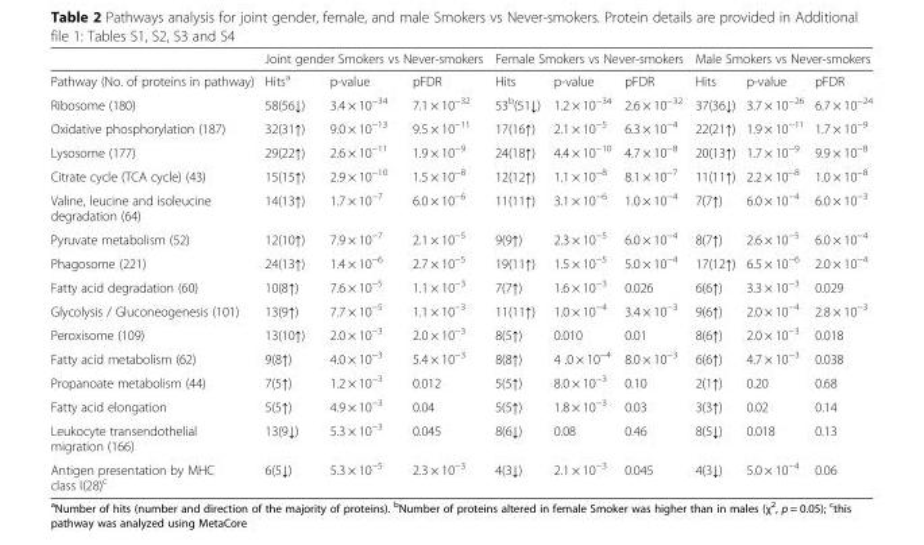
<table><thead><tr><td rowspan="2">Pathway (No. of proteins in pathway)</td><td colspan="3">Joint gender Smokers vs Never-smokers</td><td colspan="3">Female Smokers vs Never-smokers</td><td colspan="3">Male Smokers vs Never-smokers</td></tr><tr><td>Hits<sup>a</sup></td><td>p-value</td><td>pFDR</td><td>Hits</td><td>p-value</td><td>pFDR</td><td>Hits</td><td>p-value</td><td>pFDR</td></tr></thead><tbody><tr><td>Ribosome (180)</td><td>58(56↓)</td><td>3.4 × 10<sup>−34</sup></td><td>7.1 × 10<sup>−32</sup></td><td>53<sup>b</sup>(51↓)</td><td>1.2 × 10<sup>−34</sup></td><td>2.6 × 10<sup>−32</sup></td><td>37(36↓)</td><td>3.7 × 10<sup>−26</sup></td><td>6.7 × 10<sup>−24</sup></td></tr><tr><td>Oxidative phosphorylation (187)</td><td>32(31↑)</td><td>9.0 × 10<sup>−13</sup></td><td>9.5 × 10<sup>−11</sup></td><td>17(16↑)</td><td>2.1 × 10<sup>−5</sup></td><td>6.3 × 10<sup>−4</sup></td><td>22(21↑)</td><td>1.9 × 10<sup>−11</sup></td><td>1.7 × 10<sup>−9</sup></td></tr><tr><td>Lysosome (177)</td><td>29(22↑)</td><td>2.6 × 10<sup>−11</sup></td><td>1.9 × 10<sup>−9</sup></td><td>24(18↑)</td><td>4.4 × 10<sup>−10</sup></td><td>4.7 × 10<sup>−8</sup></td><td>20(13↑)</td><td>1.7 × 10<sup>−9</sup></td><td>9.9 × 10<sup>−8</sup></td></tr><tr><td>Citrate cycle (TCA cycle) (43)</td><td>15(15↑)</td><td>2.9 × 10<sup>−10</sup></td><td>1.5 × 10<sup>−8</sup></td><td>12(12↑)</td><td>1.1 × 10<sup>−8</sup></td><td>8.1 × 10<sup>−7</sup></td><td>11(11↑)</td><td>2.2 × 10<sup>−8</sup></td><td>1.0 × 10<sup>−8</sup></td></tr><tr><td>Valine, leucine and isoleucine degradation (64)</td><td>14(13↑)</td><td>1.7 × 10<sup>−7</sup></td><td>6.0 × 10<sup>−6</sup></td><td>11(11↑)</td><td>3.1 × 10<sup>−6</sup></td><td>1.0 × 10<sup>−4</sup></td><td>7(7↑)</td><td>6.0 × 10<sup>−4</sup></td><td>6.0 × 10<sup>−3</sup></td></tr><tr><td>Pyruvate metabolism (52)</td><td>12(10↑)</td><td>7.9 × 10<sup>−7</sup></td><td>2.1 × 10<sup>−5</sup></td><td>9(9↑)</td><td>2.3 × 10<sup>−5</sup></td><td>6.0 × 10<sup>−4</sup></td><td>8(7↑)</td><td>2.6 × 10<sup>−5</sup></td><td>6.0 × 10<sup>−4</sup></td></tr><tr><td>Phagosome (221)</td><td>24(13↑)</td><td>1.4 × 10<sup>−6</sup></td><td>2.7 × 10<sup>−5</sup></td><td>19(11↑)</td><td>1.5 × 10<sup>−5</sup></td><td>5.0 × 10<sup>−4</sup></td><td>17(12↑)</td><td>6.5 × 10<sup>−6</sup></td><td>2.0 × 10<sup>−4</sup></td></tr><tr><td>Fatty acid degradation (60)</td><td>10(8↑)</td><td>7.6 × 10<sup>−5</sup></td><td>1.1 × 10<sup>−3</sup></td><td>7(7↑)</td><td>1.6 × 10<sup>−3</sup></td><td>0.026</td><td>6(6↑)</td><td>3.3 × 10<sup>−3</sup></td><td>0.029</td></tr><tr><td>Glycolysis / Gluconeogenesis (101)</td><td>13(9↑)</td><td>7.7 × 10<sup>−5</sup></td><td>1.1 × 10<sup>−3</sup></td><td>11(11↑)</td><td>1.0 × 10<sup>−4</sup></td><td>3.4 × 10<sup>−3</sup></td><td>9(6↑)</td><td>2.0 × 10<sup>−4</sup></td><td>2.8 × 10<sup>−3</sup></td></tr><tr><td>Peroxisome (109)</td><td>13(10↑)</td><td>2.0 × 10<sup>−3</sup></td><td>2.0 × 10<sup>−3</sup></td><td>8(5↑)</td><td>0.010</td><td>0.01</td><td>8(6↑)</td><td>2.0 × 10<sup>−3</sup></td><td>0.018</td></tr><tr><td>Fatty acid metabolism (62)</td><td>9(8↑)</td><td>4.0 × 10<sup>−3</sup></td><td>5.4 × 10<sup>−3</sup></td><td>8(8↑)</td><td>4 .0 × 10<sup>−4</sup></td><td>8.0 × 10<sup>−3</sup></td><td>6(6↑)</td><td>4.7 × 10<sup>−3</sup></td><td>0.038</td></tr><tr><td>Propanoate metabolism (44)</td><td>7(5↑)</td><td>1.2 × 10<sup>−3</sup></td><td>0.012</td><td>5(5↑)</td><td>8.0 × 10<sup>−3</sup></td><td>0.10</td><td>2(1↑)</td><td>0.20</td><td>0.68</td></tr><tr><td>Fatty acid elongation</td><td>5(5↑)</td><td>4.9 × 10<sup>−3</sup></td><td>0.04</td><td>5(5↑)</td><td>1.8 × 10<sup>−3</sup></td><td>0.03</td><td>3(3↑)</td><td>0.02</td><td>0.14</td></tr><tr><td>Leukocyte transendothelial migration (166)</td><td>13(9↓)</td><td>5.3 × 10<sup>−3</sup></td><td>0.045</td><td>8(6↓)</td><td>0.08</td><td>0.46</td><td>8(5↓)</td><td>0.018</td><td>0.13</td></tr><tr><td>Antigen presentation by MHC class I(28)<sup>c</sup></td><td>6(5↓)</td><td>5.3 × 10<sup>−5</sup></td><td>2.3 × 10<sup>−3</sup></td><td>4(3↓)</td><td>2.1 × 10<sup>−3</sup></td><td>0.045</td><td>4(3↓)</td><td>5.0 × 10<sup>−4</sup></td><td>0.06</td></tr></tbody></table>